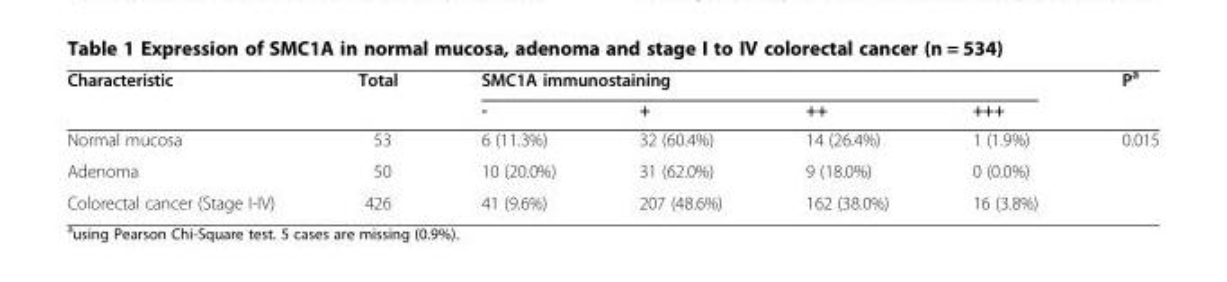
<table><thead><tr><td rowspan="2">Characteristic</td><td rowspan="2">Total</td><td colspan="4">SMC1A immunostaining</td><td rowspan="2">P<sup>a</sup></td></tr><tr><td>-</td><td>+</td><td>++</td><td>+++</td></tr></thead><tbody><tr><td>Normal mucosa</td><td>53</td><td>6 (11.3%)</td><td>32 (60.4%)</td><td>14 (26.4%)</td><td>1 (1.9%)</td><td rowspan="3">0.015</td></tr><tr><td>Adenoma</td><td>50</td><td>10 (20.0%)</td><td>31 (62.0%)</td><td>9 (18.0%)</td><td>0 (0.0%)</td></tr><tr><td>Colorectal cancer (Stage I-IV)</td><td>426</td><td>41 (9.6%)</td><td>207 (48.6%)</td><td>162 (38.0%)</td><td>16 (3.8%)</td></tr></tbody></table>